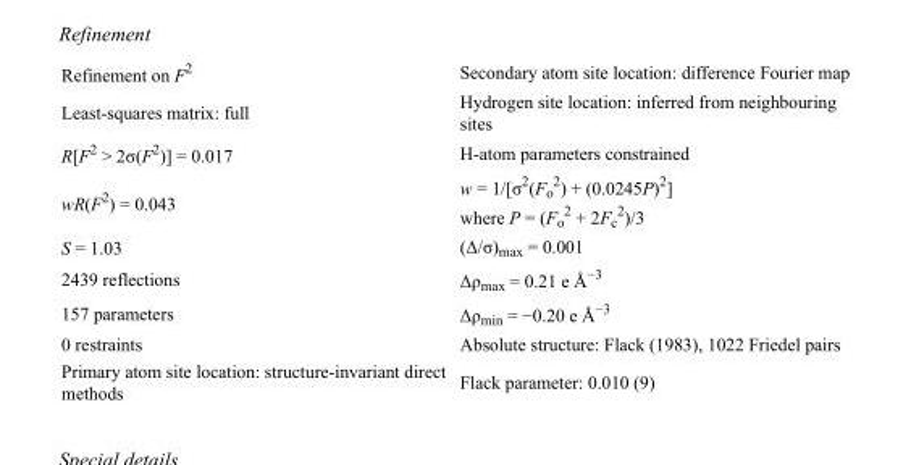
<table><tbody><tr><td>Refinement on F<sup>2</sup></td><td>Secondary atom site location: difference Fourier map</td></tr><tr><td>Least-squares matrix: full</td><td>Hydrogen site location: inferred from neighbouring sites</td></tr><tr><td>R[F<sup>2</sup> &gt; 2σ(F<sup>2</sup>)] = 0.017</td><td>H-atom parameters constrained</td></tr><tr><td>wR(F<sup>2</sup>) = 0.043</td><td>w = 1/[σ<sup>2</sup>(F<sub>o</sub> <sup>2</sup>) + (0.0245P)<sup>2</sup>] where P = (F<sub>o</sub> <sup>2</sup> + 2F<sub>c</sub> <sup>2</sup>)/3</td></tr><tr><td>S = 1.03</td><td>(Δ/σ)<sub>max</sub> = 0.001</td></tr><tr><td>2439 reflections</td><td>Δρ<sub>max</sub> = 0.21 e Å<sup>−3</sup></td></tr><tr><td>157 parameters</td><td>Δρ<sub>min</sub> = −0.20 e Å<sup>−3</sup></td></tr><tr><td>0 restraints</td><td>Absolute structure: Flack (1983), 1022 Friedel pairs</td></tr><tr><td>Primary atom site location: structure-invariant direct methods</td><td>Flack parameter: 0.010 (9)</td></tr></tbody></table>